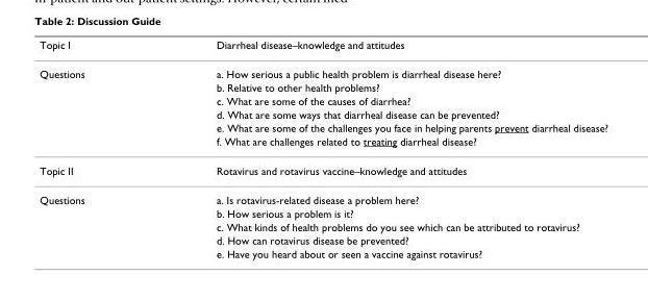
<table><thead><tr><td>Topic I</td><td>Diarrheal disease–knowledge and attitudes</td></tr></thead><tbody><tr><td rowspan="6">Questions</td><td>a. How serious a public health problem is diarrheal disease here?</td></tr><tr><td>b. Relative to other health problems?</td></tr><tr><td>c. What are some of the causes of diarrhea?</td></tr><tr><td>d. What are some ways that diarrheal disease can be prevented?</td></tr><tr><td>e. What are some of the challenges you face in helping parents prevent diarrheal disease?</td></tr><tr><td>f. What are challenges related to treating diarrheal disease?</td></tr><tr><td>Topic II</td><td>Rotavirus and rotavirus vaccine–knowledge and attitudes</td></tr><tr><td rowspan="5">Questions</td><td>a. Is rotavirus-related disease a problem here?</td></tr><tr><td>b. How serious a problem is it?</td></tr><tr><td>c. What kinds of health problems do you see which can be attributed to rotavirus?</td></tr><tr><td>d. How can rotavirus disease be prevented?</td></tr><tr><td>e. Have you heard about or seen a vaccine against rotavirus?</td></tr></tbody></table>